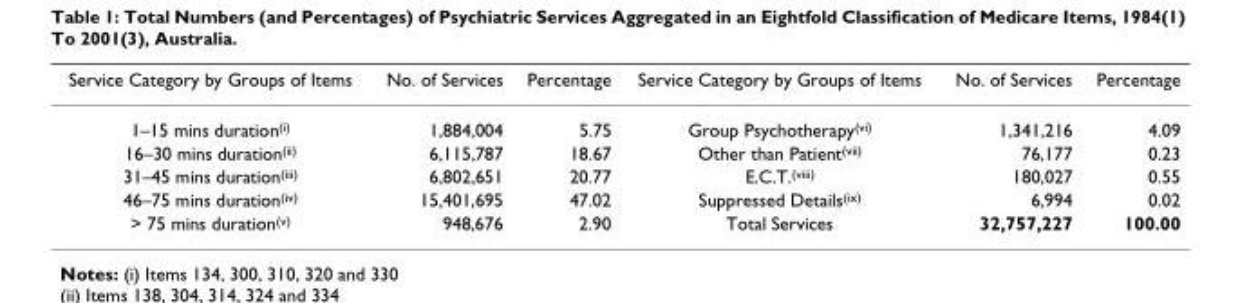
<table><thead><tr><td>Service Category by Groups of Items</td><td>No. of Services</td><td>Percentage</td><td>Service Category by Groups of Items</td><td>No. of Services</td><td>Percentage</td></tr></thead><tbody><tr><td>1–15 mins duration<sup>(i)</sup></td><td>1,884,004</td><td>5.75</td><td>Group Psychotherapy<sup>(vi)</sup></td><td>1,341,216</td><td>4.09</td></tr><tr><td>16–30 mins duration<sup>(ii)</sup></td><td>6,115,787</td><td>18.67</td><td>Other than Patient<sup>(vii)</sup></td><td>76,177</td><td>0.23</td></tr><tr><td>31–45 mins duration<sup>(iii)</sup></td><td>6,802,651</td><td>20.77</td><td>E.C.T.<sup>(viii)</sup></td><td>180,027</td><td>0.55</td></tr><tr><td>46–75 mins duration<sup>(iv)</sup></td><td>15,401,695</td><td>47.02</td><td>Suppressed Details<sup>(ix)</sup></td><td>6,994</td><td>0.02</td></tr><tr><td>&gt; 75 mins duration<sup>(v)</sup></td><td>948,676</td><td>2.90</td><td>Total Services</td><td>32,757,227</td><td>100.00</td></tr></tbody></table>